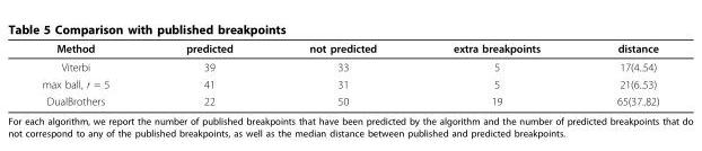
<table><thead><tr><td>Method</td><td>predicted</td><td>not predicted</td><td>extra breakpoints</td><td>distance</td></tr></thead><tbody><tr><td>Viterbi</td><td>39</td><td>33</td><td>5</td><td>17(4..54)</td></tr><tr><td>max ball, r = 5</td><td>41</td><td>31</td><td>5</td><td>21(6..53)</td></tr><tr><td>DualBrothers</td><td>22</td><td>50</td><td>19</td><td>65(37..82)</td></tr></tbody></table>